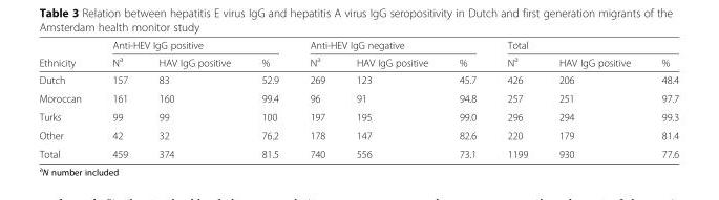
<table><thead><tr><td rowspan="2">Ethnicity</td><td colspan="3">Anti-HEV IgG positive</td><td colspan="3">Anti-HEV IgG negative</td><td colspan="3">Total</td></tr><tr><td>N<sup>a</sup></td><td>HAV IgG positive</td><td>%</td><td>N<sup>a</sup></td><td>HAV IgG positive</td><td>%</td><td>N<sup>a</sup></td><td>HAV IgG positive</td><td>%</td></tr></thead><tbody><tr><td>Dutch</td><td>157</td><td>83</td><td>52.9</td><td>269</td><td>123</td><td>45.7</td><td>426</td><td>206</td><td>48.4</td></tr><tr><td>Moroccan</td><td>161</td><td>160</td><td>99.4</td><td>96</td><td>91</td><td>94.8</td><td>257</td><td>251</td><td>97.7</td></tr><tr><td>Turks</td><td>99</td><td>99</td><td>100</td><td>197</td><td>195</td><td>99.0</td><td>296</td><td>294</td><td>99.3</td></tr><tr><td>Other</td><td>42</td><td>32</td><td>76.2</td><td>178</td><td>147</td><td>82.6</td><td>220</td><td>179</td><td>81.4</td></tr><tr><td>Total</td><td>459</td><td>374</td><td>81.5</td><td>740</td><td>556</td><td>73.1</td><td>1199</td><td>930</td><td>77.6</td></tr></tbody></table>